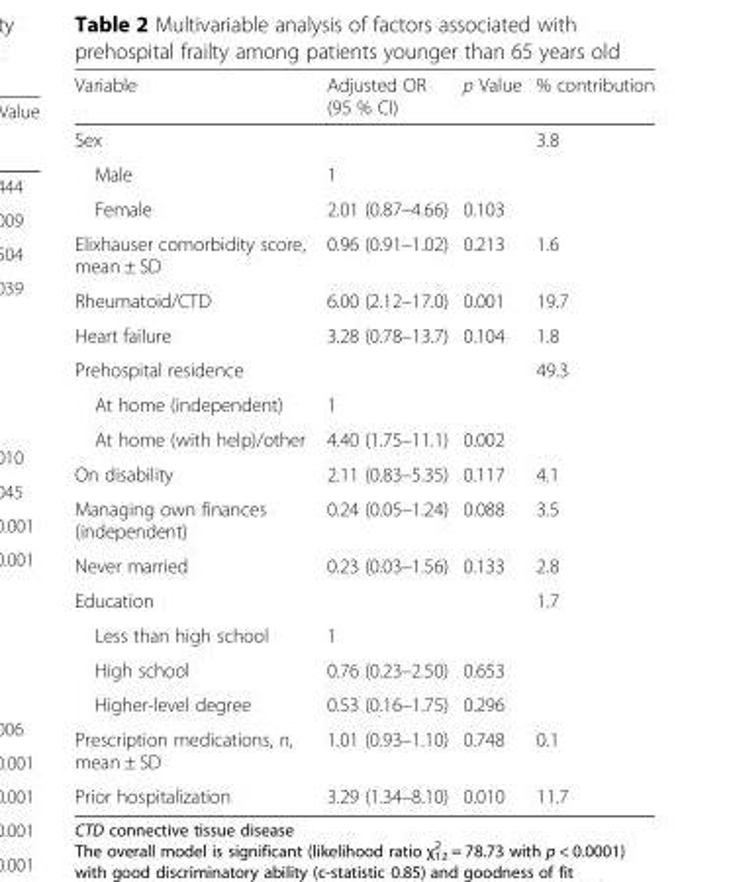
<table><thead><tr><td>Variable</td><td>Adjusted OR (95 % CI)</td><td>p Value</td><td>% contribution</td></tr></thead><tbody><tr><td>Sex</td><td></td><td></td><td>3.8</td></tr><tr><td>Male</td><td>1</td><td></td><td></td></tr><tr><td>Female</td><td>2.01 (0.87–4.66)</td><td>0.103</td><td></td></tr><tr><td>Elixhauser comorbidity score, mean ± SD</td><td>0.96 (0.91–1.02)</td><td>0.213</td><td>1.6</td></tr><tr><td>Rheumatoid/CTD</td><td>6.00 (2.12–17.0)</td><td>0.001</td><td>19.7</td></tr><tr><td>Heart failure</td><td>3.28 (0.78–13.7)</td><td>0.104</td><td>1.8</td></tr><tr><td>Prehospital residence</td><td></td><td></td><td>49.3</td></tr><tr><td>At home (independent)</td><td>1</td><td></td><td></td></tr><tr><td>At home (with help)/other</td><td>4.40 (1.75–11.1)</td><td>0.002</td><td></td></tr><tr><td>On disability</td><td>2.11 (0.83–5.35)</td><td>0.117</td><td>4.1</td></tr><tr><td>Managing own finances (independent)</td><td>0.24 (0.05–1.24)</td><td>0.088</td><td>3.5</td></tr><tr><td>Never married</td><td>0.23 (0.03–1.56)</td><td>0.133</td><td>2.8</td></tr><tr><td>Education</td><td></td><td></td><td>1.7</td></tr><tr><td>Less than high school</td><td>1</td><td></td><td></td></tr><tr><td>High school</td><td>0.76 (0.23–2.50)</td><td>0.653</td><td></td></tr><tr><td>Higher-level degree</td><td>0.53 (0.16–1.75)</td><td>0.296</td><td></td></tr><tr><td>Prescription medications, n, mean ± SD</td><td>1.01 (0.93–1.10)</td><td>0.748</td><td>0.1</td></tr><tr><td>Prior hospitalization</td><td>3.29 (1.34–8.10)</td><td>0.010</td><td>11.7</td></tr></tbody></table>